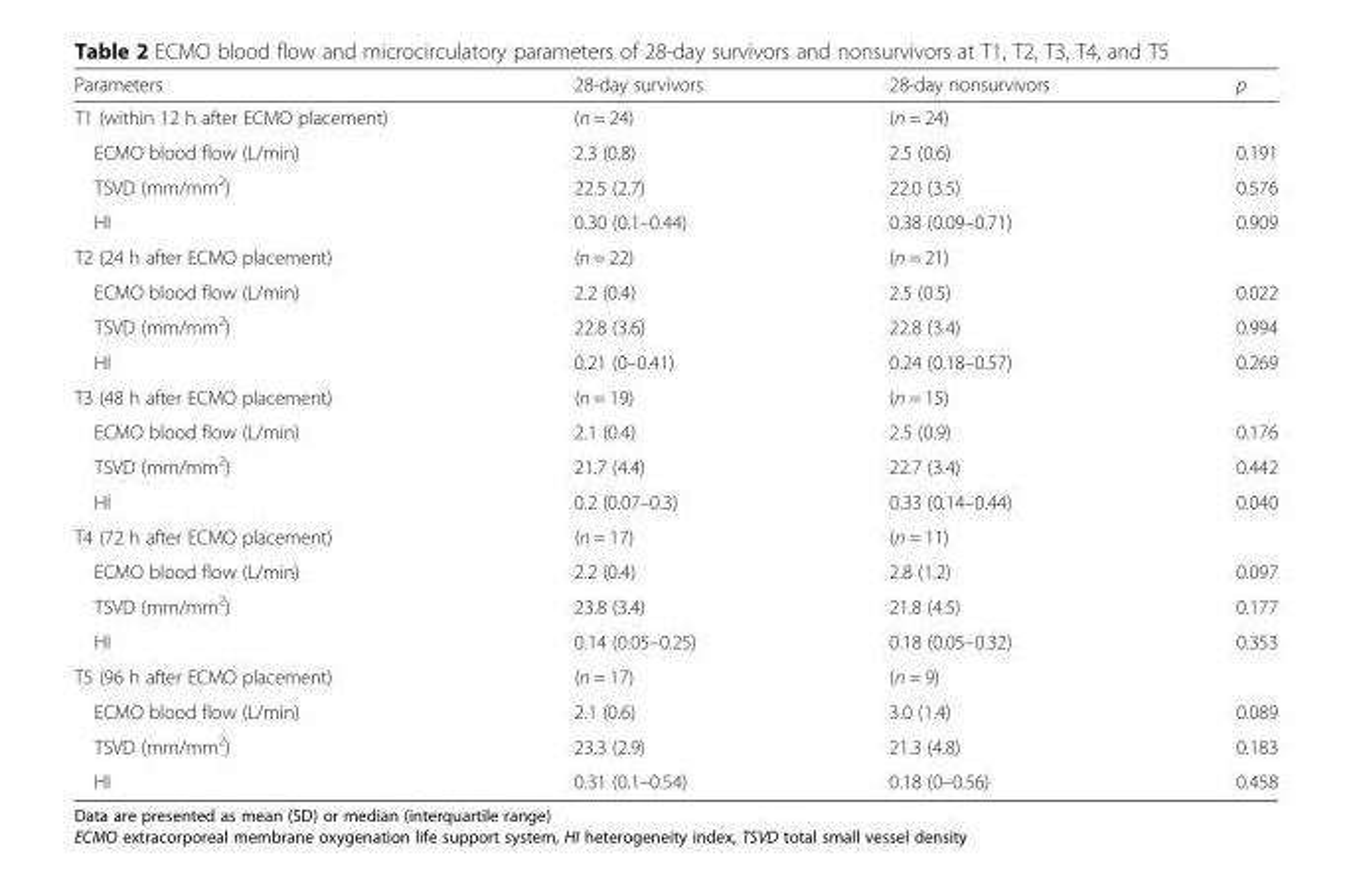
<table><thead><tr><td>Parameters</td><td>28-day survivors</td><td>28-day nonsurvivors</td><td>p</td></tr></thead><tbody><tr><td>T1 (within 12 h after ECMO placement)</td><td>(n = 24)</td><td>(n = 24)</td><td></td></tr><tr><td>ECMO blood flow (L/min)</td><td>2.3 (0.8)</td><td>2.5 (0.6)</td><td>0.191</td></tr><tr><td>TSVD (mm/mm<sup>2</sup>)</td><td>22.5 (2.7)</td><td>22.0 (3.5)</td><td>0.576</td></tr><tr><td>HI</td><td>0.30 (0.1–0.44)</td><td>0.38 (0.09–0.71)</td><td>0.909</td></tr><tr><td>T2 (24 h after ECMO placement)</td><td>(n = 22)</td><td>(n = 21)</td><td></td></tr><tr><td>ECMO blood flow (L/min)</td><td>2.2 (0.4)</td><td>2.5 (0.5)</td><td>0.022</td></tr><tr><td>TSVD (mm/mm<sup>2</sup>)</td><td>22.8 (3.6)</td><td>22.8 (3.4)</td><td>0.994</td></tr><tr><td>HI</td><td>0.21 (0–0.41)</td><td>0.24 (0.18–0.57)</td><td>0.269</td></tr><tr><td>T3 (48 h after ECMO placement)</td><td>(n = 19)</td><td>(n = 15)</td><td></td></tr><tr><td>ECMO blood flow (L/min)</td><td>2.1 (0.4)</td><td>2.5 (0.9)</td><td>0.176</td></tr><tr><td>TSVD (mm/mm<sup>2</sup>)</td><td>21.7 (4.4)</td><td>22.7 (3.4)</td><td>0.442</td></tr><tr><td>HI</td><td>0.2 (0.07–0.3)</td><td>0.33 (0.14–0.44)</td><td>0.040</td></tr><tr><td>T4 (72 h after ECMO placement)</td><td>(n = 17)</td><td>(n = 11)</td><td></td></tr><tr><td>ECMO blood flow (L/min)</td><td>2.2 (0.4)</td><td>2.8 (1.2)</td><td>0.097</td></tr><tr><td>TSVD (mm/mm<sup>2</sup>)</td><td>23.8 (3.4)</td><td>21.8 (4.5)</td><td>0.177</td></tr><tr><td>HI</td><td>0.14 (0.05–0.25)</td><td>0.18 (0.05–0.32)</td><td>0.353</td></tr><tr><td>T5 (96 h after ECMO placement)</td><td>(n = 17)</td><td>(n = 9)</td><td></td></tr><tr><td>ECMO blood flow (L/min)</td><td>2.1 (0.6)</td><td>3.0 (1.4)</td><td>0.089</td></tr><tr><td>TSVD (mm/mm<sup>2</sup>)</td><td>23.3 (2.9)</td><td>21.3 (4.8)</td><td>0.183</td></tr><tr><td>HI</td><td>0.31 (0.1–0.54)</td><td>0.18 (0–0.56)</td><td>0.458</td></tr></tbody></table>